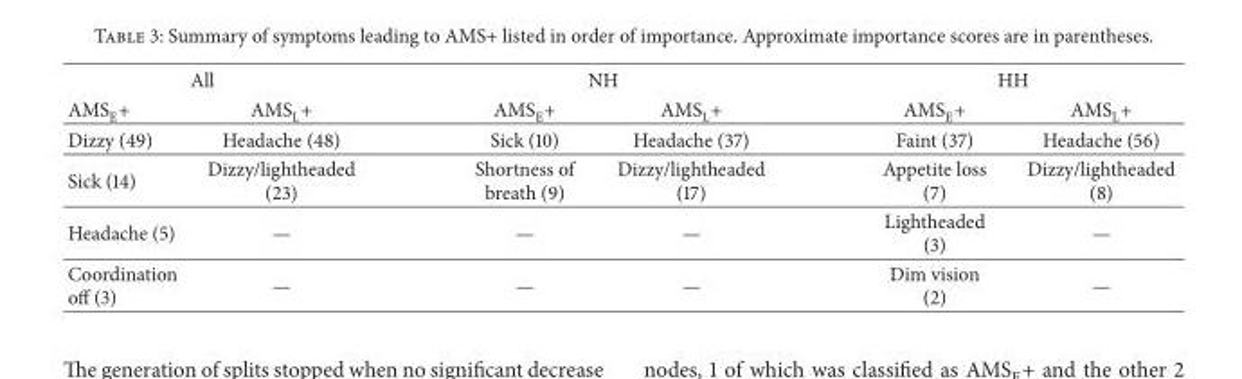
<table><thead><tr><td colspan="2">All</td><td colspan="2">NH</td><td colspan="2">HH</td></tr><tr><td>AMS<sub>E</sub>+</td><td>AMS<sub>L</sub>+</td><td>AMS<sub>E</sub>+</td><td>AMS<sub>L</sub>+</td><td>AMS<sub>E</sub>+</td><td>AMS<sub>L</sub>+</td></tr></thead><tbody><tr><td>Dizzy (49)</td><td>Headache (48)</td><td>Sick (10)</td><td>Headache (37)</td><td>Faint (37)</td><td>Headache (56)</td></tr><tr><td>Sick (14)</td><td>Dizzy/lightheaded (23)</td><td>Shortness of breath (9)</td><td>Dizzy/lightheaded (17)</td><td>Appetite loss (7)</td><td>Dizzy/lightheaded (8)</td></tr><tr><td>Headache (5)</td><td>—</td><td>—</td><td>—</td><td>Lightheaded (3)</td><td>—</td></tr><tr><td>Coordination off (3)</td><td>—</td><td>—</td><td>—</td><td>Dim vision (2)</td><td>—</td></tr></tbody></table>